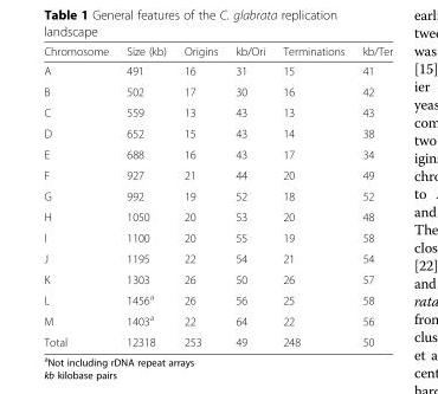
<table><thead><tr><td>Chromosome</td><td>Size (kb)</td><td>Origins</td><td>kb/Ori</td><td>Terminations</td><td>kb/Ter</td></tr></thead><tbody><tr><td>A</td><td>491</td><td>16</td><td>31</td><td>15</td><td>41</td></tr><tr><td>B</td><td>502</td><td>17</td><td>30</td><td>16</td><td>42</td></tr><tr><td>C</td><td>559</td><td>13</td><td>43</td><td>13</td><td>43</td></tr><tr><td>D</td><td>652</td><td>15</td><td>43</td><td>14</td><td>38</td></tr><tr><td>E</td><td>688</td><td>16</td><td>43</td><td>17</td><td>34</td></tr><tr><td>F</td><td>927</td><td>21</td><td>44</td><td>20</td><td>49</td></tr><tr><td>G</td><td>992</td><td>19</td><td>52</td><td>18</td><td>52</td></tr><tr><td>H</td><td>1050</td><td>20</td><td>53</td><td>20</td><td>48</td></tr><tr><td>I</td><td>1100</td><td>20</td><td>55</td><td>19</td><td>58</td></tr><tr><td>J</td><td>1195</td><td>22</td><td>54</td><td>21</td><td>54</td></tr><tr><td>K</td><td>1303</td><td>26</td><td>50</td><td>26</td><td>57</td></tr><tr><td>L</td><td>1456<sup>a</sup></td><td>26</td><td>56</td><td>25</td><td>58</td></tr><tr><td>M</td><td>1403<sup>a</sup></td><td>22</td><td>64</td><td>22</td><td>56</td></tr><tr><td>Total</td><td>12318</td><td>253</td><td>49</td><td>248</td><td>50</td></tr></tbody></table>